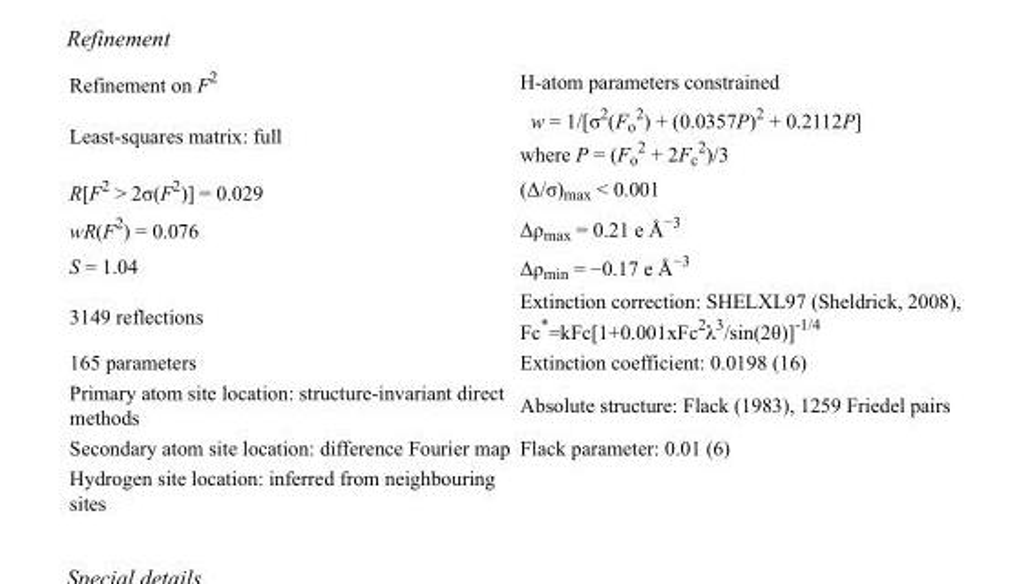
<table><tbody><tr><td>Refinement on F<sup>2</sup></td><td>H-atom parameters constrained</td></tr><tr><td>Least-squares matrix: full</td><td>w = 1/[σ<sup>2</sup>(F<sub>o</sub> <sup>2</sup>) + (0.0357P)<sup>2</sup> + 0.2112P] where P = (F<sub>o</sub> <sup>2</sup> + 2F<sub>c</sub> <sup>2</sup>)/3</td></tr><tr><td>R[F<sup>2</sup> &gt; 2σ(F<sup>2</sup>)] = 0.029</td><td>(Δ/σ)<sub>max</sub> &lt; 0.001</td></tr><tr><td>wR(F<sup>2</sup>) = 0.076</td><td>Δρ<sub>max</sub> = 0.21 e Å<sup>−3</sup></td></tr><tr><td>S = 1.04</td><td>Δρ<sub>min</sub> = −0.17 e Å<sup>−3</sup></td></tr><tr><td>3149 reflections</td><td>Extinction correction: SHELXL97 (Sheldrick, 2008), Fc*=kFc[1+0.001xFc<sup>2</sup>λ<sup>3</sup>/sin(2θ)]<sup>-1/4</sup></td></tr><tr><td>165 parameters</td><td>Extinction coefficient: 0.0198 (16)</td></tr><tr><td>Primary atom site location: structure-invariant direct methods</td><td>Absolute structure: Flack (1983), 1259 Friedel pairs</td></tr><tr><td>Secondary atom site location: difference Fourier map</td><td>Flack parameter: 0.01 (6)</td></tr><tr><td>Hydrogen site location: inferred from neighbouring sites</td><td></td></tr></tbody></table>